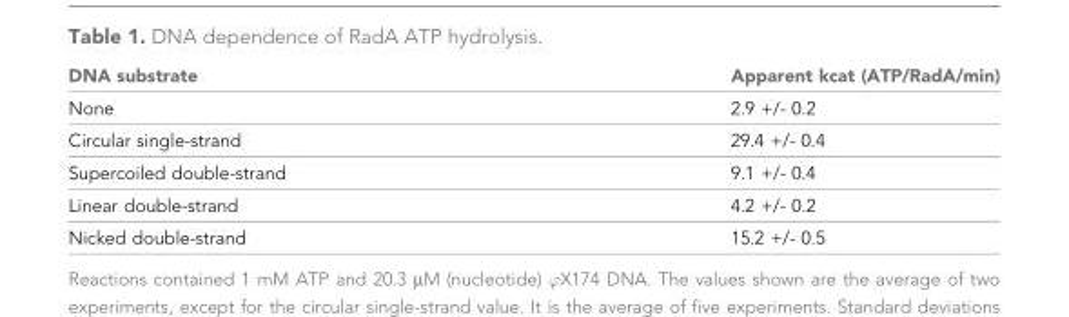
<table><thead><tr><td>DNA substrate</td><td>Apparent kcat (ATP/RadA/min)</td></tr></thead><tbody><tr><td>None</td><td>2.9 +/- 0.2</td></tr><tr><td>Circular single-strand</td><td>29.4 +/- 0.4</td></tr><tr><td>Supercoiled double-strand</td><td>9.1 +/- 0.4</td></tr><tr><td>Linear double-strand</td><td>4.2 +/- 0.2</td></tr><tr><td>Nicked double-strand</td><td>15.2 +/- 0.5</td></tr></tbody></table>